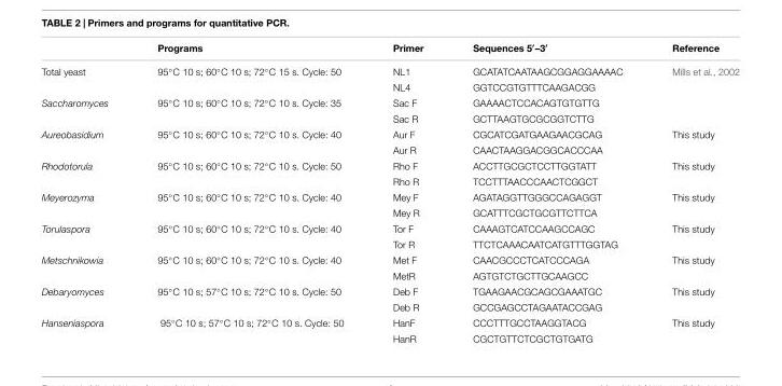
<table><thead><tr><td></td><td>Programs</td><td>Primer</td><td>Sequences 5′–3′</td><td>Reference</td></tr></thead><tbody><tr><td rowspan="2">Total yeast</td><td>95◦C 10 s; 60◦C 10 s; 72◦C 15 s. Cycle: 50</td><td>NL1</td><td>GCATATCAATAAGCGGAGGAAAAC</td><td>Mills et al., 2002</td></tr><tr><td></td><td>NL4</td><td>GGTCCGTGTTTCAAGACGG</td><td></td></tr><tr><td rowspan="2">Saccharomyces</td><td>95◦C 10 s; 60◦C 10 s; 72◦C 10 s. Cycle: 35</td><td>Sac F</td><td>GAAAACTCCACAGTGTGTTG</td><td></td></tr><tr><td></td><td>Sac R</td><td>GCTTAAGTGCGCGGTCTTG</td><td></td></tr><tr><td rowspan="2">Aureobasidium</td><td>95◦C 10 s; 60◦C 10 s; 72◦C 10 s. Cycle: 40</td><td>Aur F</td><td>CGCATCGATGAAGAACGCAG</td><td>This study</td></tr><tr><td></td><td>Aur R</td><td>CAACTAAGGACGGCACCCAA</td><td></td></tr><tr><td rowspan="2">Rhodotorula</td><td>95◦C 10 s; 60◦C 10 s; 72◦C 10 s. Cycle: 50</td><td>Rho F</td><td>ACCTTGCGCTCCTTGGTATT</td><td>This study</td></tr><tr><td></td><td>Rho R</td><td>TCCTTTAACCCAACTCGGCT</td><td></td></tr><tr><td rowspan="2">Meyerozyma</td><td>95◦C 10 s; 60◦C 10 s; 72◦C 10 s. Cycle: 40</td><td>Mey F</td><td>AGATAGGTTGGGCCAGAGGT</td><td>This study</td></tr><tr><td></td><td>Mey R</td><td>GCATTTCGCTGCGTTCTTCA</td><td></td></tr><tr><td rowspan="2">Torulaspora</td><td>95◦C 10 s; 60◦C 10 s; 72◦C 10 s. Cycle: 40</td><td>Tor F</td><td>CAAAGTCATCCAAGCCAGC</td><td>This study</td></tr><tr><td></td><td>Tor R</td><td>TTCTCAAACAATCATGTTTGGTAG</td><td></td></tr><tr><td rowspan="2">Metschnikowia</td><td>95◦C 10 s; 60◦C 10 s; 72◦C 10 s. Cycle: 40</td><td>Met F</td><td>CAACGCCCTCATCCCAGA</td><td>This study</td></tr><tr><td></td><td>MetR</td><td>AGTGTCTGCTTGCAAGCC</td><td></td></tr><tr><td rowspan="2">Debaryomyces</td><td>95◦C 10 s; 57◦C 10 s; 72◦C 10 s. Cycle: 50</td><td>Deb F</td><td>TGAAGAACGCAGCGAAATGC</td><td>This study</td></tr><tr><td></td><td>Deb R</td><td>GCCGAGCCTAGAATACCGAG</td><td></td></tr><tr><td rowspan="2">Hanseniaspora</td><td>95◦C 10 s; 57◦C 10 s; 72◦C 10 s. Cycle: 50</td><td>HanF</td><td>CCCTTTGCCTAAGGTACG</td><td>This study</td></tr><tr><td></td><td>HanR</td><td>CGCTGTTCTCGCTGTGATG</td><td></td></tr></tbody></table>